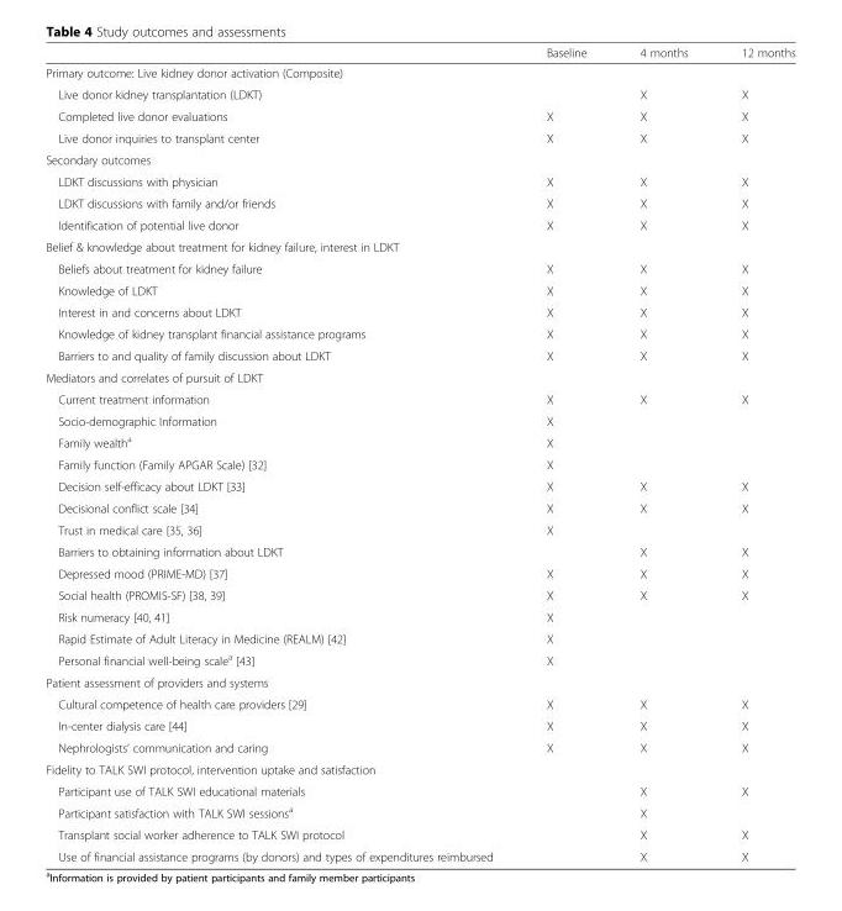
<table><thead><tr><td></td><td>Baseline</td><td>4 months</td><td>12 months</td></tr></thead><tbody><tr><td colspan="4">Primary outcome: Live kidney donor activation (Composite)</td></tr><tr><td>Live donor kidney transplantation (LDKT)</td><td></td><td>X</td><td>X</td></tr><tr><td>Completed live donor evaluations</td><td>X</td><td>X</td><td>X</td></tr><tr><td>Live donor inquiries to transplant center</td><td>X</td><td>X</td><td>X</td></tr><tr><td colspan="4">Secondary outcomes</td></tr><tr><td>LDKT discussions with physician</td><td>X</td><td>X</td><td>X</td></tr><tr><td>LDKT discussions with family and/or friends</td><td>X</td><td>X</td><td>X</td></tr><tr><td>Identification of potential live donor</td><td>X</td><td>X</td><td>X</td></tr><tr><td colspan="4">Belief &amp; knowledge about treatment for kidney failure, interest in LDKT</td></tr><tr><td>Beliefs about treatment for kidney failure</td><td>X</td><td>X</td><td>X</td></tr><tr><td>Knowledge of LDKT</td><td>X</td><td>X</td><td>X</td></tr><tr><td>Interest in and concerns about LDKT</td><td>X</td><td>X</td><td>X</td></tr><tr><td>Knowledge of kidney transplant financial assistance programs</td><td>X</td><td>X</td><td>X</td></tr><tr><td>Barriers to and quality of family discussion about LDKT</td><td>X</td><td>X</td><td>X</td></tr><tr><td colspan="4">Mediators and correlates of pursuit of LDKT</td></tr><tr><td>Current treatment information</td><td>X</td><td>X</td><td>X</td></tr><tr><td>Socio-demographic Information</td><td>X</td><td></td><td></td></tr><tr><td>Family wealth<sup>a</sup></td><td>X</td><td></td><td></td></tr><tr><td>Family function (Family APGAR Scale) [32]</td><td>X</td><td></td><td></td></tr><tr><td>Decision self-efficacy about LDKT [33]</td><td>X</td><td>X</td><td>X</td></tr><tr><td>Decisional conflict scale [34]</td><td>X</td><td>X</td><td>X</td></tr><tr><td>Trust in medical care [35, 36]</td><td>X</td><td></td><td></td></tr><tr><td>Barriers to obtaining information about LDKT</td><td></td><td>X</td><td>X</td></tr><tr><td>Depressed mood (PRIME-MD) [37]</td><td>X</td><td>X</td><td>X</td></tr><tr><td>Social health (PROMIS-SF) [38, 39]</td><td>X</td><td>X</td><td>X</td></tr><tr><td>Risk numeracy [40, 41]</td><td>X</td><td></td><td></td></tr><tr><td>Rapid Estimate of Adult Literacy in Medicine (REALM) [42]</td><td>X</td><td></td><td></td></tr><tr><td>Personal financial well-being scale<sup>a</sup> [43]</td><td>X</td><td></td><td></td></tr><tr><td colspan="4">Patient assessment of providers and systems</td></tr><tr><td>Cultural competence of health care providers [29]</td><td>X</td><td>X</td><td>X</td></tr><tr><td>In-center dialysis care [44]</td><td>X</td><td>X</td><td>X</td></tr><tr><td>Nephrologists’ communication and caring</td><td>X</td><td>X</td><td>X</td></tr><tr><td colspan="4">Fidelity to TALK SWI protocol, intervention uptake and satisfaction</td></tr><tr><td>Participant use of TALK SWI educational materials</td><td></td><td>X</td><td>X</td></tr><tr><td>Participant satisfaction with TALK SWI sessions<sup>a</sup></td><td></td><td>X</td><td></td></tr><tr><td>Transplant social worker adherence to TALK SWI protocol</td><td></td><td>X</td><td>X</td></tr><tr><td>Use of financial assistance programs (by donors) and types of expenditures reimbursed</td><td></td><td>X</td><td>X</td></tr></tbody></table>